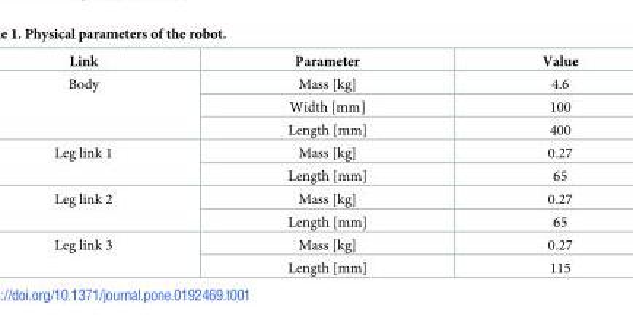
<table><thead><tr><td>Link</td><td>Parameter</td><td>Value</td></tr></thead><tbody><tr><td rowspan="3">Body</td><td>Mass [kg]</td><td>4.6</td></tr><tr><td>Width [mm]</td><td>100</td></tr><tr><td>Length [mm]</td><td>400</td></tr><tr><td rowspan="2">Leg link 1</td><td>Mass [kg]</td><td>0.27</td></tr><tr><td>Length [mm]</td><td>65</td></tr><tr><td rowspan="2">Leg link 2</td><td>Mass [kg]</td><td>0.27</td></tr><tr><td>Length [mm]</td><td>65</td></tr><tr><td rowspan="2">Leg link 3</td><td>Mass [kg]</td><td>0.27</td></tr><tr><td>Length [mm]</td><td>115</td></tr></tbody></table>